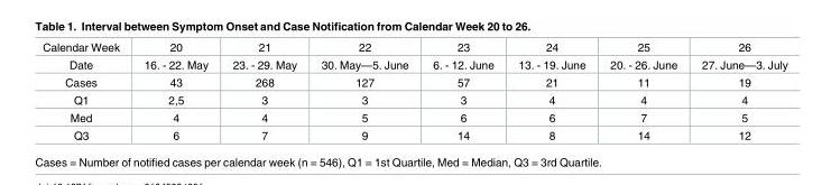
<table><tbody><tr><td>Calendar Week</td><td>20</td><td>21</td><td>22</td><td>23</td><td>24</td><td>25</td><td>26</td></tr><tr><td>Date</td><td>16. - 22. May</td><td>23. - 29. May</td><td>30. May—5. June</td><td>6. - 12. June</td><td>13. - 19. June</td><td>20. - 26. June</td><td>27. June—3. July</td></tr><tr><td>Cases</td><td>43</td><td>268</td><td>127</td><td>57</td><td>21</td><td>11</td><td>19</td></tr><tr><td>Q1</td><td>2,5</td><td>3</td><td>3</td><td>3</td><td>4</td><td>4</td><td>4</td></tr><tr><td>Med</td><td>4</td><td>4</td><td>5</td><td>6</td><td>6</td><td>7</td><td>5</td></tr><tr><td>Q3</td><td>6</td><td>7</td><td>9</td><td>14</td><td>8</td><td>14</td><td>12</td></tr></tbody></table>